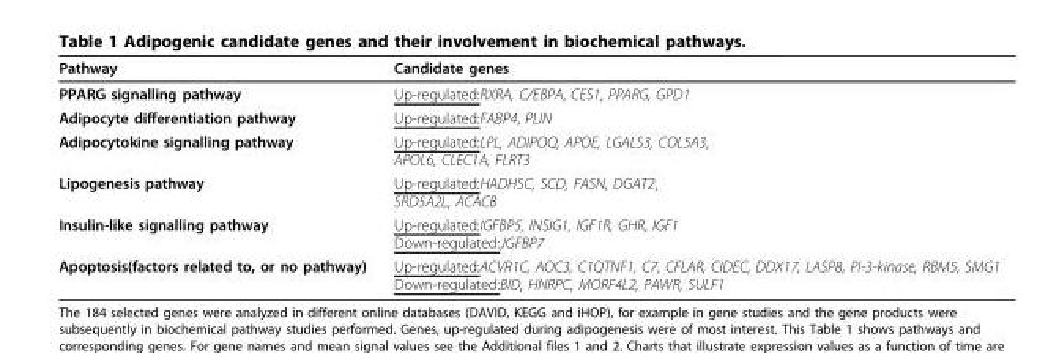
<table><thead><tr><td>Pathway</td><td>Candidate genes</td></tr></thead><tbody><tr><td>PPARG signalling pathway</td><td>Up-regulated:RXRA, C/EBPA, CES1, PPARG, GPD1</td></tr><tr><td>Adipocyte differentiation pathway</td><td>Up-regulated:FABP4, PLIN</td></tr><tr><td>Adipocytokine signalling pathway</td><td>Up-regulated:LPL, ADIPOQ, APOE, LGALS3, COL5A3, APOL6, CLEC1A, FLRT3</td></tr><tr><td>Lipogenesis pathway</td><td>Up-regulated:HADHSC, SCD, FASN, DGAT2, SRD5A2L, ACACB</td></tr><tr><td>Insulin-like signalling pathway</td><td>Up-regulated:IGFBP5, INSIG1, IGF1R, GHR, IGF1 Down-regulated:,IGFBP7</td></tr><tr><td>Apoptosis(factors related to, or no pathway)</td><td>Up-regulated:ACVR1C, AOC3, C1QTNF1, C7, CFLAR, CIDEC, DDX17, LASP8, PI-3-kinase, RBM5, SMG1 Down-regulated:BID, HNRPC, MORF4L2, PAWR, SULF1</td></tr></tbody></table>